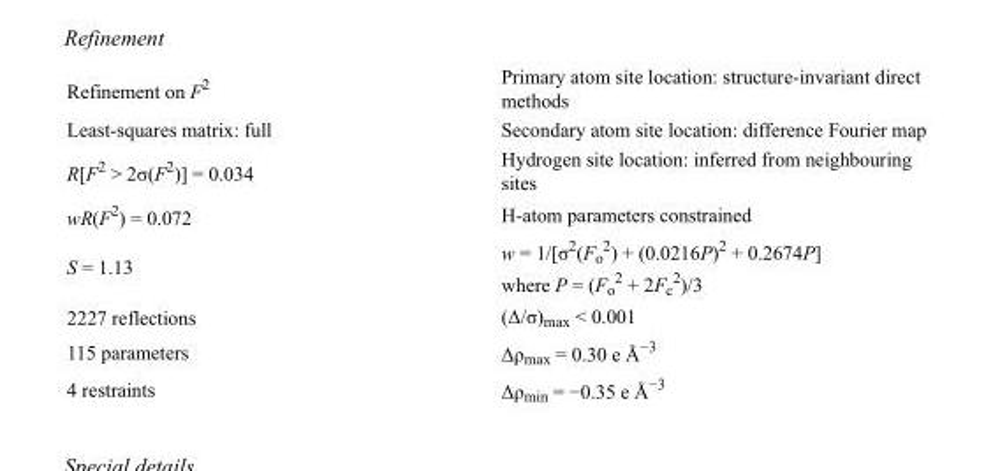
<table><tbody><tr><td>Refinement on F<sup>2</sup></td><td>Primary atom site location: structure-invariant direct methods</td></tr><tr><td>Least-squares matrix: full</td><td>Secondary atom site location: difference Fourier map</td></tr><tr><td>R[F<sup>2</sup> &gt; 2σ(F<sup>2</sup>)] = 0.034</td><td>Hydrogen site location: inferred from neighbouring sites</td></tr><tr><td>wR(F<sup>2</sup>) = 0.072</td><td>H-atom parameters constrained</td></tr><tr><td>S = 1.13</td><td>w = 1/[σ<sup>2</sup>(F<sub>o</sub> <sup>2</sup>) + (0.0216P)<sup>2</sup> + 0.2674P] where P = (F<sub>o</sub> <sup>2</sup> + 2F<sub>c</sub> <sup>2</sup>)/3</td></tr><tr><td>2227 reflections</td><td>(Δ/σ)<sub>max</sub> &lt; 0.001</td></tr><tr><td>115 parameters</td><td>Δρ<sub>max</sub> = 0.30 e Å<sup>−3</sup></td></tr><tr><td>4 restraints</td><td>Δρ<sub>min</sub> = −0.35 e Å<sup>−3</sup></td></tr></tbody></table>